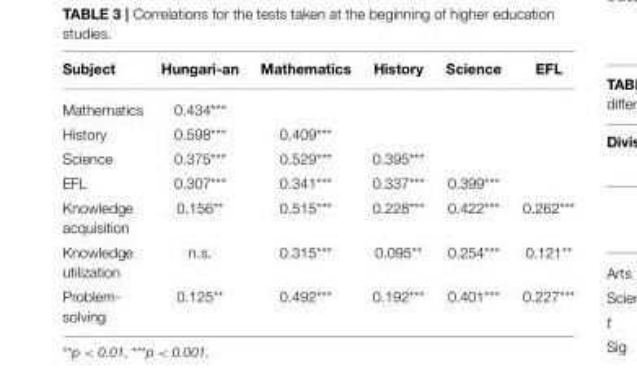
<table><thead><tr><td>Subject</td><td>Hungari-an</td><td>Mathematics</td><td>History</td><td>Science</td><td>EFL</td></tr></thead><tbody><tr><td>Mathematics</td><td>0.434***</td><td></td><td></td><td></td><td></td></tr><tr><td>History</td><td>0.598***</td><td>0.409***</td><td></td><td></td><td></td></tr><tr><td>Science</td><td>0.375***</td><td>0.529***</td><td>0.395***</td><td></td><td></td></tr><tr><td>EFL</td><td>0.307***</td><td>0.341***</td><td>0.337***</td><td>0.399***</td><td></td></tr><tr><td>Knowledge acquisition</td><td>0.156**</td><td>0.515***</td><td>0.228***</td><td>0.422***</td><td>0.262***</td></tr><tr><td>Knowledge utilization</td><td>n.s.</td><td>0.315***</td><td>0.095**</td><td>0.254***</td><td>0.121**</td></tr><tr><td>Problem- solving</td><td>0.125**</td><td>0.492***</td><td>0.192***</td><td>0.401***</td><td>0.227***</td></tr></tbody></table>